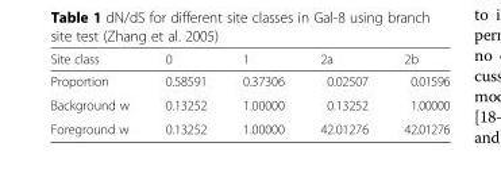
<table><thead><tr><td>Site class</td><td>0</td><td>1</td><td>2a</td><td>2b</td></tr></thead><tbody><tr><td>Proportion</td><td>0.58591</td><td>0.37306</td><td>0.02507</td><td>0.01596</td></tr><tr><td>Background w</td><td>0.13252</td><td>1.00000</td><td>0.13252</td><td>1.00000</td></tr><tr><td>Foreground w</td><td>0.13252</td><td>1.00000</td><td>42.01276</td><td>42.01276</td></tr></tbody></table>